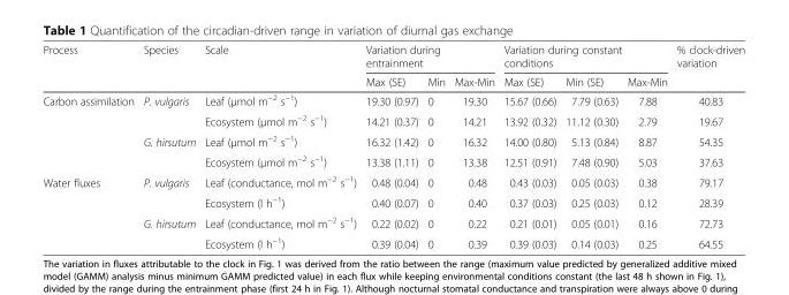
<table><thead><tr><td rowspan="2">Process</td><td rowspan="2">Species</td><td rowspan="2">Scale</td><td colspan="3">Variation during entrainment</td><td colspan="3">Variation during constant conditions</td><td rowspan="2">% clock-driven variation</td></tr><tr><td>Max (SE)</td><td>Min</td><td>Max-Min</td><td>Max (SE)</td><td>Min (SE)</td><td>Max-Min</td></tr></thead><tbody><tr><td rowspan="4">Carbon assimilation</td><td rowspan="2">P. vulgaris</td><td>Leaf (μmol m<sup>−2</sup> s<sup>−1</sup>)</td><td>19.30 (0.97)</td><td>0</td><td>19.30</td><td>15.67 (0.66)</td><td>7.79 (0.63)</td><td>7.88</td><td>40.83</td></tr><tr><td>Ecosystem (μmol m<sup>−2</sup> s<sup>−1</sup>)</td><td>14.21 (0.37)</td><td>0</td><td>14.21</td><td>13.92 (0.32)</td><td>11.12 (0.30)</td><td>2.79</td><td>19.67</td></tr><tr><td rowspan="2">G. hirsutum</td><td>Leaf (μmol m<sup>−2</sup> s<sup>−1</sup>)</td><td>16.32 (1.42)</td><td>0</td><td>16.32</td><td>14.00 (0.80)</td><td>5.13 (0.84)</td><td>8.87</td><td>54.35</td></tr><tr><td>Ecosystem (μmol m<sup>−2</sup> s<sup>−1</sup>)</td><td>13.38 (1.11)</td><td>0</td><td>13.38</td><td>12.51 (0.91)</td><td>7.48 (0.90)</td><td>5.03</td><td>37.63</td></tr><tr><td rowspan="4">Water fluxes</td><td rowspan="2">P. vulgaris</td><td>Leaf (conductance, mol m<sup>−2</sup> s<sup>−1</sup>)</td><td>0.48 (0.04)</td><td>0</td><td>0.48</td><td>0.43 (0.03)</td><td>0.05 (0.03)</td><td>0.38</td><td>79.17</td></tr><tr><td>Ecosystem (l h<sup>−1</sup>)</td><td>0.40 (0.07)</td><td>0</td><td>0.40</td><td>0.37 (0.03)</td><td>0.25 (0.03)</td><td>0.12</td><td>28.39</td></tr><tr><td rowspan="2">G. hirsutum</td><td>Leaf (conductance, mol m<sup>−2</sup> s<sup>−1</sup>)</td><td>0.22 (0.02)</td><td>0</td><td>0.22</td><td>0.21 (0.01)</td><td>0.05 (0.01)</td><td>0.16</td><td>72.73</td></tr><tr><td>Ecosystem (l h<sup>−1</sup>)</td><td>0.39 (0.04)</td><td>0</td><td>0.39</td><td>0.39 (0.03)</td><td>0.14 (0.03)</td><td>0.25</td><td>64.55</td></tr></tbody></table>